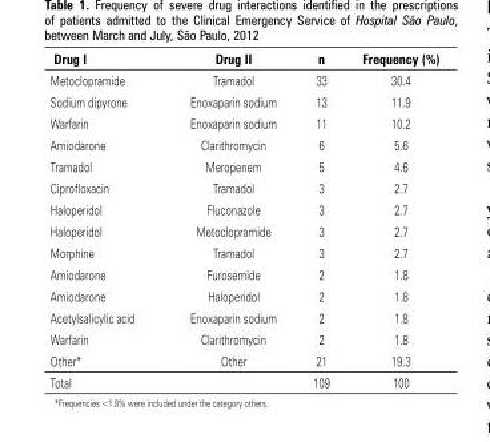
<table><thead><tr><td>Drug I</td><td>Drug II</td><td>n</td><td>Frequency (%)</td></tr></thead><tbody><tr><td>Metoclopramide</td><td>Tramadol</td><td>33</td><td>30.4</td></tr><tr><td>Sodium dipyrone</td><td>Enoxaparin sodium</td><td>13</td><td>11.9</td></tr><tr><td>Warfarin</td><td>Enoxaparin sodium</td><td>11</td><td>10.2</td></tr><tr><td>Amiodarone</td><td>Clarithromycin</td><td>6</td><td>5.6</td></tr><tr><td>Tramadol</td><td>Meropenem</td><td>5</td><td>4.6</td></tr><tr><td>Ciprofloxacin</td><td>Tramadol</td><td>3</td><td>2.7</td></tr><tr><td>Haloperidol</td><td>Fluconazole</td><td>3</td><td>2.7</td></tr><tr><td>Haloperidol</td><td>Metoclopramide</td><td>3</td><td>2.7</td></tr><tr><td>Morphine</td><td>Tramadol</td><td>3</td><td>2.7</td></tr><tr><td>Amiodarone</td><td>Furosemide</td><td>2</td><td>1.8</td></tr><tr><td>Amiodarone</td><td>Haloperidol</td><td>2</td><td>1.8</td></tr><tr><td>Acetylsalicylic acid</td><td>Enoxaparin sodium</td><td>2</td><td>1.8</td></tr><tr><td>Warfarin</td><td>Clarithromycin</td><td>2</td><td>1.8</td></tr><tr><td>Other*</td><td>Other</td><td>21</td><td>19.3</td></tr><tr><td>Total</td><td></td><td>109</td><td>100</td></tr></tbody></table>